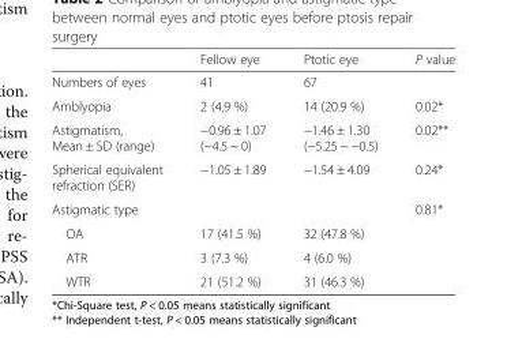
<table><thead><tr><td></td><td>Fellow eye</td><td>Ptotic eye</td><td>P value</td></tr></thead><tbody><tr><td>Numbers of eyes</td><td>41</td><td>67</td><td></td></tr><tr><td>Amblyopia</td><td>2 (4.9 %)</td><td>14 (20.9 %)</td><td>0.02*</td></tr><tr><td>Astigmatism, Mean ± SD (range)</td><td>−0.96 ± 1.07 (−4.5 ~ 0)</td><td>−1.46 ± 1.30 (−5.25 ~ −0.5)</td><td>0.02**</td></tr><tr><td>Spherical equivalent refraction (SER)</td><td>−1.05 ± 1.89</td><td>−1.54 ± 4.09</td><td>0.24*</td></tr><tr><td>Astigmatic type</td><td></td><td></td><td>0.81*</td></tr><tr><td>OA</td><td>17 (41.5 %)</td><td>32 (47.8 %)</td><td></td></tr><tr><td>ATR</td><td>3 (7.3 %)</td><td>4 (6.0 %)</td><td></td></tr><tr><td>WTR</td><td>21 (51.2 %)</td><td>31 (46.3 %)</td><td></td></tr></tbody></table>